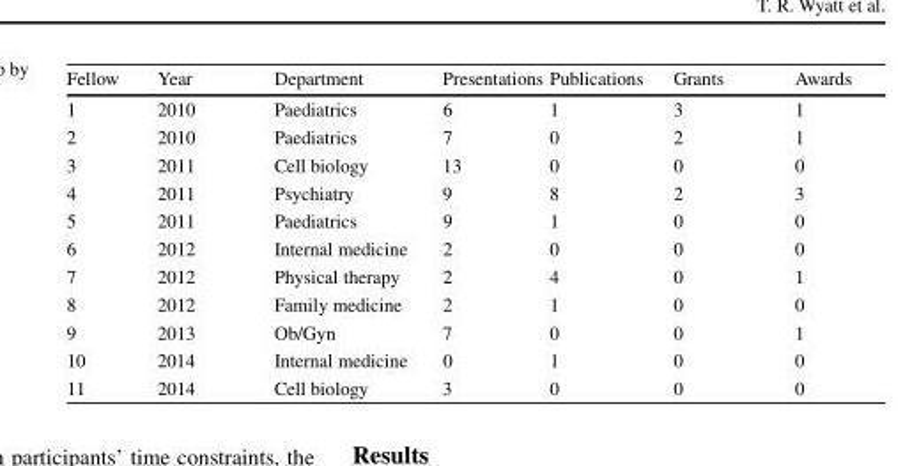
<table><thead><tr><td>Fellow</td><td>Year</td><td>Department</td><td>Presentations</td><td>Publications</td><td>Grants</td><td>Awards</td></tr></thead><tbody><tr><td>1</td><td>2010</td><td>Paediatrics</td><td>6</td><td>1</td><td>3</td><td>1</td></tr><tr><td>2</td><td>2010</td><td>Paediatrics</td><td>7</td><td>0</td><td>2</td><td>1</td></tr><tr><td>3</td><td>2011</td><td>Cell biology</td><td>13</td><td>0</td><td>0</td><td>0</td></tr><tr><td>4</td><td>2011</td><td>Psychiatry</td><td>9</td><td>8</td><td>2</td><td>3</td></tr><tr><td>5</td><td>2011</td><td>Paediatrics</td><td>9</td><td>1</td><td>0</td><td>0</td></tr><tr><td>6</td><td>2012</td><td>Internal medicine</td><td>2</td><td>0</td><td>0</td><td>0</td></tr><tr><td>7</td><td>2012</td><td>Physical therapy</td><td>2</td><td>4</td><td>0</td><td>1</td></tr><tr><td>8</td><td>2012</td><td>Family medicine</td><td>2</td><td>1</td><td>0</td><td>0</td></tr><tr><td>9</td><td>2013</td><td>Ob/Gyn</td><td>7</td><td>0</td><td>0</td><td>1</td></tr><tr><td>10</td><td>2014</td><td>Internal medicine</td><td>0</td><td>1</td><td>0</td><td>0</td></tr><tr><td>11</td><td>2014</td><td>Cell biology</td><td>3</td><td>0</td><td>0</td><td>0</td></tr></tbody></table>